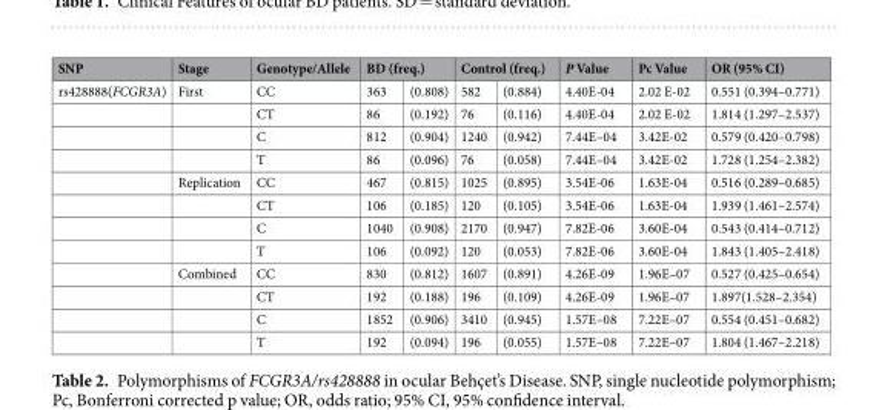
<table><thead><tr><td rowspan="2">SNP rs428888(FCGR3A)</td><td rowspan="2">Stage First</td><td rowspan="2">Genotype/Allele CC</td><td colspan="2">BD (freq.)</td><td colspan="2">Control (freq.)</td><td rowspan="2">P Value 4.40E-04</td><td rowspan="2">Pc Value 2.02 E-02</td><td rowspan="2">OR (95% CI) 0.551 (0.394–0.771)</td></tr><tr><td>363</td><td>(0.808)</td><td>582</td><td>(0.884)</td></tr></thead><tbody><tr><td></td><td></td><td>CT</td><td>86</td><td>(0.192)</td><td>76</td><td>(0.116)</td><td>4.40E-04</td><td>2.02 E-02</td><td>1.814 (1.297–2.537)</td></tr><tr><td></td><td></td><td>C</td><td>812</td><td>(0.904)</td><td>1240</td><td>(0.942)</td><td>7.44E–04</td><td>3.42E-02</td><td>0.579 (0.420–0.798)</td></tr><tr><td></td><td></td><td>T</td><td>86</td><td>(0.096)</td><td>76</td><td>(0.058)</td><td>7.44E–04</td><td>3.42E-02</td><td>1.728 (1.254–2.382)</td></tr><tr><td></td><td>Replication</td><td>CC</td><td>467</td><td>(0.815)</td><td>1025</td><td>(0.895)</td><td>3.54E-06</td><td>1.63E-04</td><td>0.516 (0.289–0.685)</td></tr><tr><td></td><td></td><td>CT</td><td>106</td><td>(0.185)</td><td>120</td><td>(0.105)</td><td>3.54E-06</td><td>1.63E-04</td><td>1.939 (1.461–2.574)</td></tr><tr><td></td><td></td><td>C</td><td>1040</td><td>(0.908)</td><td>2170</td><td>(0.947)</td><td>7.82E-06</td><td>3.60E-04</td><td>0.543 (0.414–0.712)</td></tr><tr><td></td><td></td><td>T</td><td>106</td><td>(0.092)</td><td>120</td><td>(0.053)</td><td>7.82E-06</td><td>3.60E-04</td><td>1.843 (1.405–2.418)</td></tr><tr><td></td><td>Combined</td><td>CC</td><td>830</td><td>(0.812)</td><td>1607</td><td>(0.891)</td><td>4.26E-09</td><td>1.96E–07</td><td>0.527 (0.425–0.654)</td></tr><tr><td></td><td></td><td>CT</td><td>192</td><td>(0.188)</td><td>196</td><td>(0.109)</td><td>4.26E-09</td><td>1.96E–07</td><td>1.897(1.528–2.354)</td></tr><tr><td></td><td></td><td>C</td><td>1852</td><td>(0.906)</td><td>3410</td><td>(0.945)</td><td>1.57E–08</td><td>7.22E–07</td><td>0.554 (0.451–0.682)</td></tr><tr><td></td><td></td><td>T</td><td>192</td><td>(0.094)</td><td>196</td><td>(0.055)</td><td>1.57E–08</td><td>7.22E–07</td><td>1.804 (1.467–2.218)</td></tr></tbody></table>